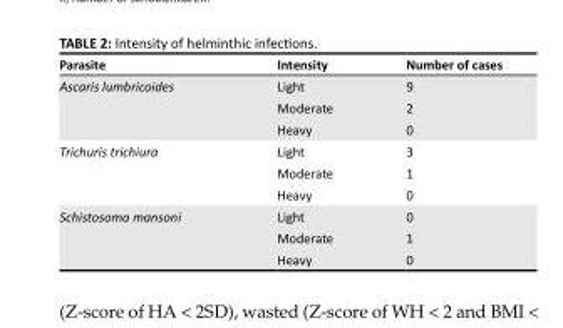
<table><thead><tr><td>Parasite</td><td>Intensity</td><td>Number of cases</td></tr></thead><tbody><tr><td rowspan="3">Ascaris lumbricoides</td><td>Light</td><td>9</td></tr><tr><td>Moderate</td><td>2</td></tr><tr><td>Heavy</td><td>0</td></tr><tr><td rowspan="3">Trichuris trichiura</td><td>Light</td><td>3</td></tr><tr><td>Moderate</td><td>1</td></tr><tr><td>Heavy</td><td>0</td></tr><tr><td rowspan="3">Schistosoma mansoni</td><td>Light</td><td>0</td></tr><tr><td>Moderate</td><td>1</td></tr><tr><td>Heavy</td><td>0</td></tr></tbody></table>